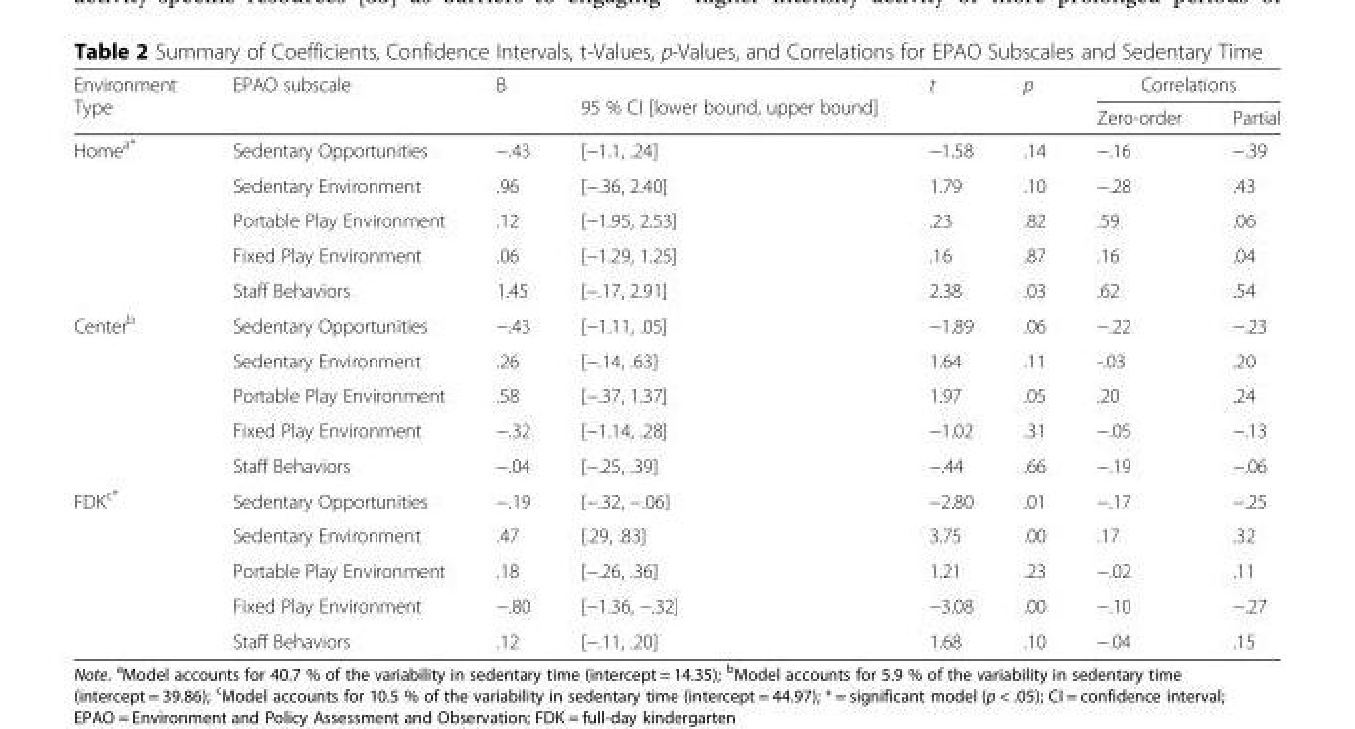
<table><thead><tr><td rowspan="2">Environment Type</td><td rowspan="2">EPAO subscale</td><td rowspan="2">B</td><td rowspan="2">95 % CI [lower bound, upper bound]</td><td rowspan="2">t</td><td rowspan="2">p</td><td colspan="2">Correlations</td></tr><tr><td>Zero-order</td><td>Partial</td></tr></thead><tbody><tr><td rowspan="5">Home<sup>a*</sup></td><td>Sedentary Opportunities</td><td>−.43</td><td>[−1.1, .24]</td><td>−1.58</td><td>.14</td><td>−.16</td><td>−.39</td></tr><tr><td>Sedentary Environment</td><td>.96</td><td>[−.36, 2.40]</td><td>1.79</td><td>.10</td><td>−.28</td><td>.43</td></tr><tr><td>Portable Play Environment</td><td>.12</td><td>[−1.95, 2.53]</td><td>.23</td><td>.82</td><td>.59</td><td>.06</td></tr><tr><td>Fixed Play Environment</td><td>.06</td><td>[−1.29, 1.25]</td><td>.16</td><td>.87</td><td>.16</td><td>.04</td></tr><tr><td>Staff Behaviors</td><td>1.45</td><td>[−.17, 2.91]</td><td>2.38</td><td>.03</td><td>.62</td><td>.54</td></tr><tr><td rowspan="5">Center<sup>b</sup></td><td>Sedentary Opportunities</td><td>−.43</td><td>[−1.11, .05]</td><td>−1.89</td><td>.06</td><td>−.22</td><td>−.23</td></tr><tr><td>Sedentary Environment</td><td>.26</td><td>[−.14, .63]</td><td>1.64</td><td>.11</td><td>-.03</td><td>.20</td></tr><tr><td>Portable Play Environment</td><td>.58</td><td>[−.37, 1.37]</td><td>1.97</td><td>.05</td><td>.20</td><td>.24</td></tr><tr><td>Fixed Play Environment</td><td>−.32</td><td>[−1.14, .28]</td><td>−1.02</td><td>.31</td><td>−.05</td><td>−.13</td></tr><tr><td>Staff Behaviors</td><td>−.04</td><td>[−.25, .39]</td><td>−.44</td><td>.66</td><td>−.19</td><td>−.06</td></tr><tr><td rowspan="5">FDK<sup>c*</sup></td><td>Sedentary Opportunities</td><td>−.19</td><td>[−.32, −.06]</td><td>−2.80</td><td>.01</td><td>−.17</td><td>−.25</td></tr><tr><td>Sedentary Environment</td><td>.47</td><td>[.29, .83]</td><td>3.75</td><td>.00</td><td>.17</td><td>.32</td></tr><tr><td>Portable Play Environment</td><td>.18</td><td>[−.26, .36]</td><td>1.21</td><td>.23</td><td>−.02</td><td>.11</td></tr><tr><td>Fixed Play Environment</td><td>−.80</td><td>[−1.36, −.32]</td><td>−3.08</td><td>.00</td><td>−.10</td><td>−.27</td></tr><tr><td>Staff Behaviors</td><td>.12</td><td>[−.11, .20]</td><td>1.68</td><td>.10</td><td>−.04</td><td>.15</td></tr></tbody></table>